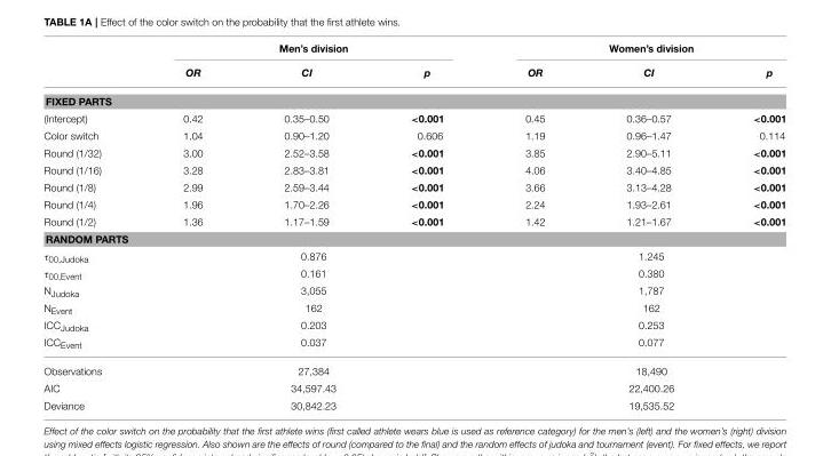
<table><thead><tr><td rowspan="2"></td><td colspan="3">Men’s division</td><td colspan="3">Women’s division</td></tr><tr><td>OR</td><td>CI</td><td>p</td><td>OR</td><td>CI</td><td>p</td></tr></thead><tbody><tr><td colspan="7">FIXED PARTS</td></tr><tr><td>(Intercept)</td><td>0.42</td><td>0.35–0.50</td><td>&lt;0.001</td><td>0.45</td><td>0.36–0.57</td><td>&lt;0.001</td></tr><tr><td>Color switch</td><td>1.04</td><td>0.90–1.20</td><td>0.606</td><td>1.19</td><td>0.96–1.47</td><td>0.114</td></tr><tr><td>Round (1/32)</td><td>3.00</td><td>2.52–3.58</td><td>&lt;0.001</td><td>3.85</td><td>2.90–5.11</td><td>&lt;0.001</td></tr><tr><td>Round (1/16)</td><td>3.28</td><td>2.83–3.81</td><td>&lt;0.001</td><td>4.06</td><td>3.40–4.85</td><td>&lt;0.001</td></tr><tr><td>Round (1/8)</td><td>2.99</td><td>2.59–3.44</td><td>&lt;0.001</td><td>3.66</td><td>3.13–4.28</td><td>&lt;0.001</td></tr><tr><td>Round (1/4)</td><td>1.96</td><td>1.70–2.26</td><td>&lt;0.001</td><td>2.24</td><td>1.93–2.61</td><td>&lt;0.001</td></tr><tr><td>Round (1/2)</td><td>1.36</td><td>1.17–1.59</td><td>&lt;0.001</td><td>1.42</td><td>1.21–1.67</td><td>&lt;0.001</td></tr><tr><td colspan="7">RANDOM PARTS</td></tr><tr><td><sup>τ</sup>00,Judoka</td><td colspan="3">0.876</td><td colspan="3">1.245</td></tr><tr><td><sup>τ</sup>00,Event</td><td colspan="3">0.161</td><td colspan="3">0.380</td></tr><tr><td>N<sub>Judoka</sub></td><td colspan="3">3,055</td><td colspan="3">1,787</td></tr><tr><td>N<sub>Event</sub></td><td colspan="3">162</td><td colspan="3">162</td></tr><tr><td>ICC<sub>Judoka</sub></td><td colspan="3">0.203</td><td colspan="3">0.253</td></tr><tr><td>ICC<sub>Event</sub></td><td colspan="3">0.037</td><td colspan="3">0.077</td></tr><tr><td>Observations</td><td colspan="3">27,384</td><td colspan="3">18,490</td></tr><tr><td>AIC</td><td colspan="3">34,597.43</td><td colspan="3">22,400.26</td></tr><tr><td>Deviance</td><td colspan="3">30,842.23</td><td colspan="3">19,535.52</td></tr></tbody></table>